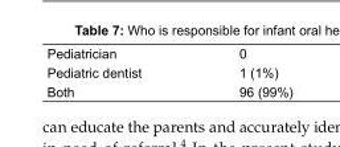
<table><tbody><tr><td>Pediatrician</td><td>0</td></tr><tr><td>Pediatric dentist</td><td>1 (1%)</td></tr><tr><td>Both</td><td>96 (99%)</td></tr></tbody></table>